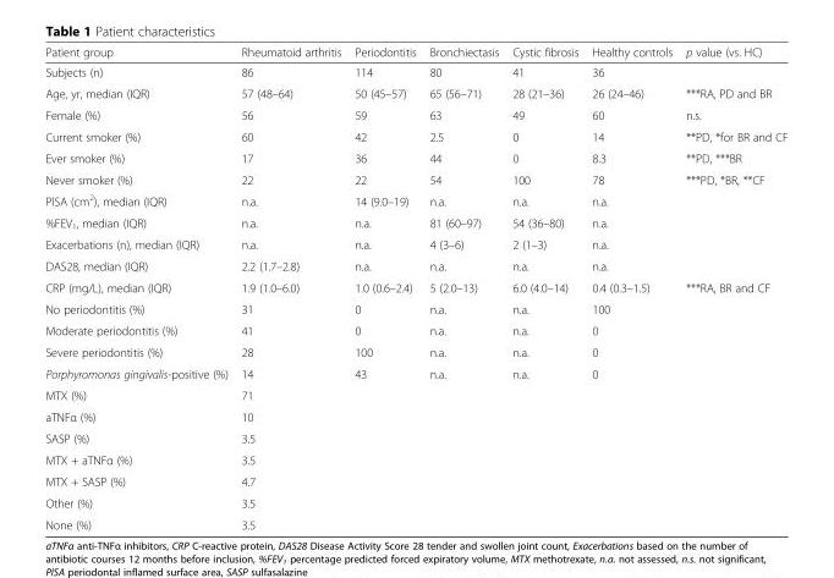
<table><thead><tr><td>Patient group</td><td>Rheumatoid arthritis</td><td>Periodontitis</td><td>Bronchiectasis</td><td>Cystic fibrosis</td><td>Healthy controls</td><td>p value (vs. HC)</td></tr></thead><tbody><tr><td>Subjects (n)</td><td>86</td><td>114</td><td>80</td><td>41</td><td>36</td><td></td></tr><tr><td>Age, yr, median (IQR)</td><td>57 (48–64)</td><td>50 (45–57)</td><td>65 (56–71)</td><td>28 (21–36)</td><td>26 (24–46)</td><td>***RA, PD and BR</td></tr><tr><td>Female (%)</td><td>56</td><td>59</td><td>63</td><td>49</td><td>60</td><td>n.s.</td></tr><tr><td>Current smoker (%)</td><td>60</td><td>42</td><td>2.5</td><td>0</td><td>14</td><td>**PD, *for BR and CF</td></tr><tr><td>Ever smoker (%)</td><td>17</td><td>36</td><td>44</td><td>0</td><td>8.3</td><td>**PD, ***BR</td></tr><tr><td>Never smoker (%)</td><td>22</td><td>22</td><td>54</td><td>100</td><td>78</td><td>***PD, *BR, **CF</td></tr><tr><td>PISA (cm<sup>2</sup>), median (IQR)</td><td>n.a.</td><td>14 (9.0–19)</td><td>n.a.</td><td>n.a.</td><td>n.a.</td><td></td></tr><tr><td>%FEV<sub>1</sub>, median (IQR)</td><td>n.a.</td><td>n.a.</td><td>81 (60–97)</td><td>54 (36–80)</td><td>n.a.</td><td></td></tr><tr><td>Exacerbations (n), median (IQR)</td><td>n.a.</td><td>n.a.</td><td>4 (3–6)</td><td>2 (1–3)</td><td>n.a.</td><td></td></tr><tr><td>DAS28, median (IQR)</td><td>2.2 (1.7–2.8)</td><td>n.a.</td><td>n.a.</td><td>n.a.</td><td>n.a.</td><td></td></tr><tr><td>CRP (mg/L), median (IQR)</td><td>1.9 (1.0–6.0)</td><td>1.0 (0.6–2.4)</td><td>5 (2.0–13)</td><td>6.0 (4.0–14)</td><td>0.4 (0.3–1.5)</td><td>***RA, BR and CF</td></tr><tr><td>No periodontitis (%)</td><td>31</td><td>0</td><td>n.a.</td><td>n.a.</td><td>100</td><td></td></tr><tr><td>Moderate periodontitis (%)</td><td>41</td><td>0</td><td>n.a.</td><td>n.a.</td><td>0</td><td></td></tr><tr><td>Severe periodontitis (%)</td><td>28</td><td>100</td><td>n.a.</td><td>n.a.</td><td>0</td><td></td></tr><tr><td>Porphyromonas gingivalis-positive (%)</td><td>14</td><td>43</td><td>n.a.</td><td>n.a.</td><td>0</td><td></td></tr><tr><td>MTX (%)</td><td>71</td><td></td><td></td><td></td><td></td><td></td></tr><tr><td>aTNFα (%)</td><td>10</td><td></td><td></td><td></td><td></td><td></td></tr><tr><td>SASP (%)</td><td>3.5</td><td></td><td></td><td></td><td></td><td></td></tr><tr><td>MTX + aTNFα (%)</td><td>3.5</td><td></td><td></td><td></td><td></td><td></td></tr><tr><td>MTX + SASP (%)</td><td>4.7</td><td></td><td></td><td></td><td></td><td></td></tr><tr><td>Other (%)</td><td>3.5</td><td></td><td></td><td></td><td></td><td></td></tr><tr><td>None (%)</td><td>3.5</td><td></td><td></td><td></td><td></td><td></td></tr></tbody></table>